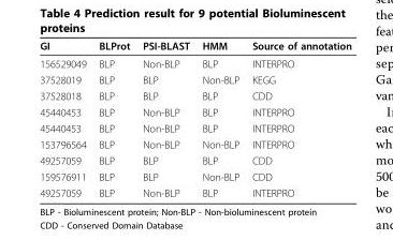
<table><thead><tr><td>GI</td><td>BLProt</td><td>PSI-BLAST</td><td>HMM</td><td>Source of annotation</td></tr></thead><tbody><tr><td>156529049</td><td>BLP</td><td>Non-BLP</td><td>BLP</td><td>INTERPRO</td></tr><tr><td>37528019</td><td>BLP</td><td>BLP</td><td>Non-BLP</td><td>KEGG</td></tr><tr><td>37528018</td><td>BLP</td><td>BLP</td><td>BLP</td><td>CDD</td></tr><tr><td>45440453</td><td>BLP</td><td>Non-BLP</td><td>BLP</td><td>INTERPRO</td></tr><tr><td>45440453</td><td>BLP</td><td>Non-BLP</td><td>BLP</td><td>INTERPRO</td></tr><tr><td>153796564</td><td>BLP</td><td>Non-BLP</td><td>Non-BLP</td><td>INTERPRO</td></tr><tr><td>49257059</td><td>BLP</td><td>BLP</td><td>BLP</td><td>CDD</td></tr><tr><td>159576911</td><td>BLP</td><td>BLP</td><td>Non-BLP</td><td>CDD</td></tr><tr><td>49257059</td><td>BLP</td><td>Non-BLP</td><td>BLP</td><td>INTERPRO</td></tr></tbody></table>